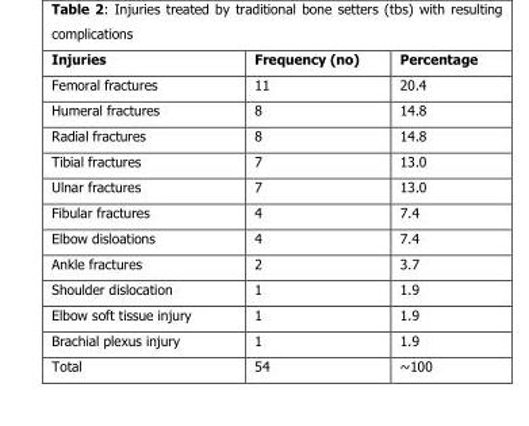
<table><thead><tr><td>Injuries</td><td>Frequency (no)</td><td>Percentage</td></tr></thead><tbody><tr><td>Femoral fractures</td><td>11</td><td>20.4</td></tr><tr><td>Humeral fractures</td><td>8</td><td>14.8</td></tr><tr><td>Radial fractures</td><td>8</td><td>14.8</td></tr><tr><td>Tibial fractures</td><td>7</td><td>13.0</td></tr><tr><td>Ulnar fractures</td><td>7</td><td>13.0</td></tr><tr><td>Fibular fractures</td><td>4</td><td>7.4</td></tr><tr><td>Elbow disloations</td><td>4</td><td>7.4</td></tr><tr><td>Ankle fractures</td><td>2</td><td>3.7</td></tr><tr><td>Shoulder dislocation</td><td>1</td><td>1.9</td></tr><tr><td>Elbow soft tissue injury</td><td>1</td><td>1.9</td></tr><tr><td>Brachial plexus injury</td><td>1</td><td>1.9</td></tr><tr><td>Total</td><td>54</td><td>~100</td></tr></tbody></table>